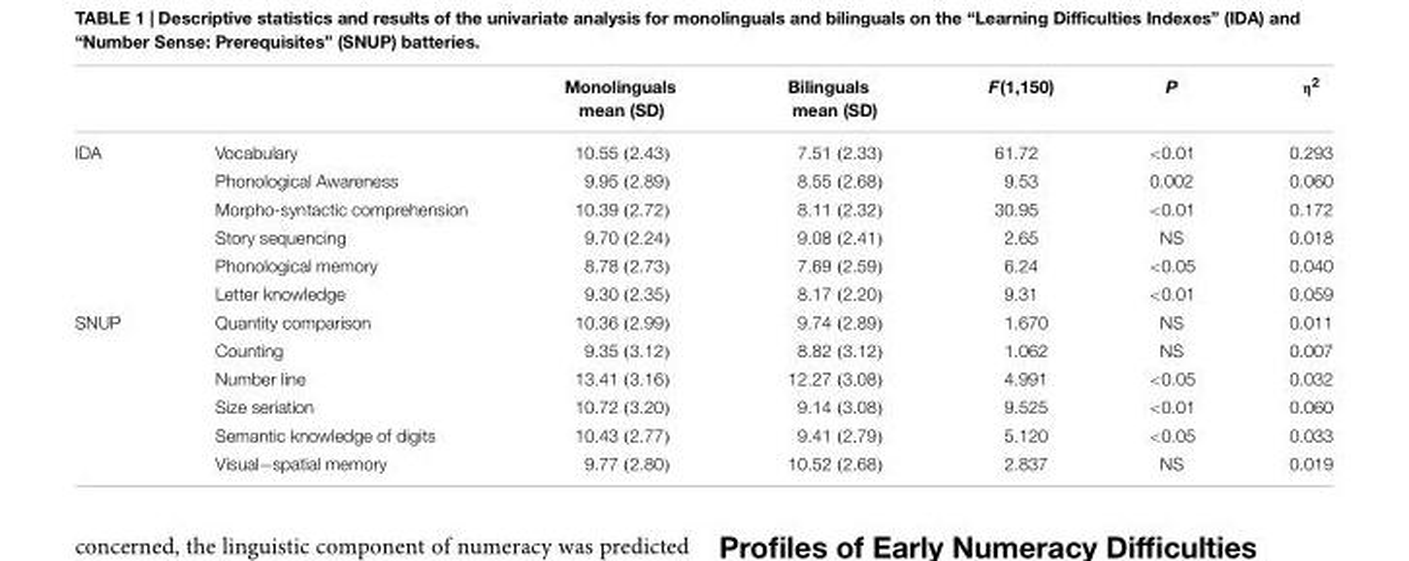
<table><thead><tr><td></td><td></td><td>Monolinguals mean (SD)</td><td>Bilinguals mean (SD)</td><td>F(1,150)</td><td>P</td><td>η<sup>2</sup></td></tr></thead><tbody><tr><td rowspan="6">IDA</td><td>Vocabulary</td><td>10.55 (2.43)</td><td>7.51 (2.33)</td><td>61.72</td><td>&lt;0.01</td><td>0.293</td></tr><tr><td>Phonological Awareness</td><td>9.95 (2.89)</td><td>8.55 (2.68)</td><td>9.53</td><td>0.002</td><td>0.060</td></tr><tr><td>Morpho-syntactic comprehension</td><td>10.39 (2.72)</td><td>8.11 (2.32)</td><td>30.95</td><td>&lt;0.01</td><td>0.172</td></tr><tr><td>Story sequencing</td><td>9.70 (2.24)</td><td>9.08 (2.41)</td><td>2.65</td><td>NS</td><td>0.018</td></tr><tr><td>Phonological memory</td><td>8.78 (2.73)</td><td>7.69 (2.59)</td><td>6.24</td><td>&lt;0.05</td><td>0.040</td></tr><tr><td>Letter knowledge</td><td>9.30 (2.35)</td><td>8.17 (2.20)</td><td>9.31</td><td>&lt;0.01</td><td>0.059</td></tr><tr><td rowspan="6">SNUP</td><td>Quantity comparison</td><td>10.36 (2.99)</td><td>9.74 (2.89)</td><td>1.670</td><td>NS</td><td>0.011</td></tr><tr><td>Counting</td><td>9.35 (3.12)</td><td>8.82 (3.12)</td><td>1.062</td><td>NS</td><td>0.007</td></tr><tr><td>Number line</td><td>13.41 (3.16)</td><td>12.27 (3.08)</td><td>4.991</td><td>&lt;0.05</td><td>0.032</td></tr><tr><td>Size seriation</td><td>10.72 (3.20)</td><td>9.14 (3.08)</td><td>9.525</td><td>&lt;0.01</td><td>0.060</td></tr><tr><td>Semantic knowledge of digits</td><td>10.43 (2.77)</td><td>9.41 (2.79)</td><td>5.120</td><td>&lt;0.05</td><td>0.033</td></tr><tr><td>Visual−spatial memory</td><td>9.77 (2.80)</td><td>10.52 (2.68)</td><td>2.837</td><td>NS</td><td>0.019</td></tr></tbody></table>